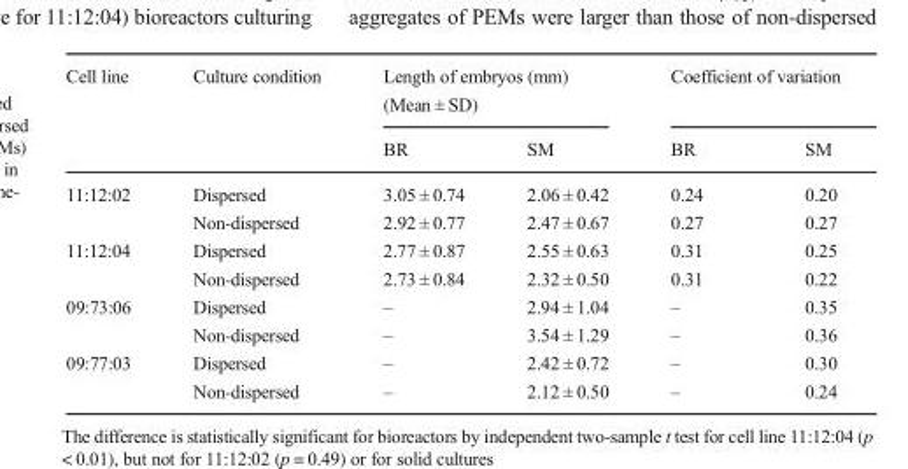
<table><thead><tr><td rowspan="2">Cell line</td><td rowspan="2">Culture condition</td><td colspan="2">Length of embryos (mm) (Mean ± SD)</td><td colspan="2">Coefficient of variation</td></tr><tr><td>BR</td><td>SM</td><td>BR</td><td>SM</td></tr></thead><tbody><tr><td rowspan="2">11:12:02</td><td>Dispersed</td><td>3.05 ± 0.74</td><td>2.06 ± 0.42</td><td>0.24</td><td>0.20</td></tr><tr><td>Non-dispersed</td><td>2.92 ± 0.77</td><td>2.47 ± 0.67</td><td>0.27</td><td>0.27</td></tr><tr><td rowspan="2">11:12:04</td><td>Dispersed</td><td>2.77 ± 0.87</td><td>2.55 ± 0.63</td><td>0.31</td><td>0.25</td></tr><tr><td>Non-dispersed</td><td>2.73 ± 0.84</td><td>2.32 ± 0.50</td><td>0.31</td><td>0.22</td></tr><tr><td rowspan="2">09:73:06</td><td>Dispersed</td><td>–</td><td>2.94 ± 1.04</td><td>–</td><td>0.35</td></tr><tr><td>Non-dispersed</td><td>–</td><td>3.54 ± 1.29</td><td>–</td><td>0.36</td></tr><tr><td rowspan="2">09:77:03</td><td>Dispersed</td><td>–</td><td>2.42 ± 0.72</td><td>–</td><td>0.30</td></tr><tr><td>Non-dispersed</td><td>–</td><td>2.12 ± 0.50</td><td>–</td><td>0.24</td></tr></tbody></table>